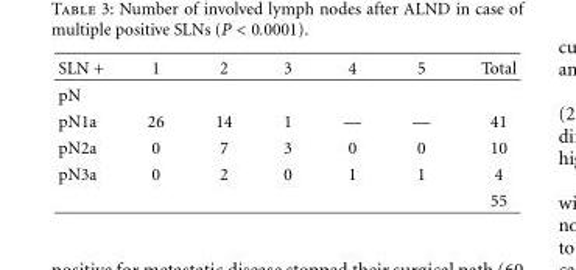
<table><thead><tr><td>SLN +</td><td>1</td><td>2</td><td>3</td><td>4</td><td>5</td><td>Total</td></tr></thead><tbody><tr><td colspan="7">pN</td></tr><tr><td>pN1a</td><td>26</td><td>14</td><td>1</td><td>—</td><td>—</td><td>41</td></tr><tr><td>pN2a</td><td>0</td><td>7</td><td>3</td><td>0</td><td>0</td><td>10</td></tr><tr><td rowspan="2">pN3a</td><td>0</td><td>2</td><td>0</td><td>1</td><td>1</td><td>4</td></tr><tr><td></td><td></td><td></td><td></td><td></td><td>55</td></tr></tbody></table>